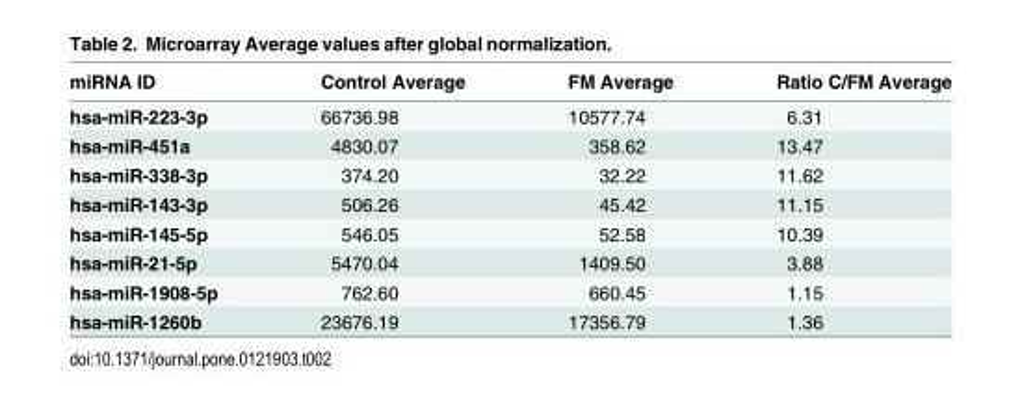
<table><thead><tr><td>miRNA ID</td><td>Control Average</td><td>FM Average</td><td>Ratio C/FM Average</td></tr></thead><tbody><tr><td>hsa-miR-223-3p</td><td>66736.98</td><td>10577.74</td><td>6.31</td></tr><tr><td>hsa-miR-451a</td><td>4830.07</td><td>358.62</td><td>13.47</td></tr><tr><td>hsa-miR-338-3p</td><td>374.20</td><td>32.22</td><td>11.62</td></tr><tr><td>hsa-miR-143-3p</td><td>506.26</td><td>45.42</td><td>11.15</td></tr><tr><td>hsa-miR-145-5p</td><td>546.05</td><td>52.58</td><td>10.39</td></tr><tr><td>hsa-miR-21-5p</td><td>5470.04</td><td>1409.50</td><td>3.88</td></tr><tr><td>hsa-miR-1908-5p</td><td>762.60</td><td>660.45</td><td>1.15</td></tr><tr><td>hsa-miR-1260b</td><td>23676.19</td><td>17356.79</td><td>1.36</td></tr></tbody></table>